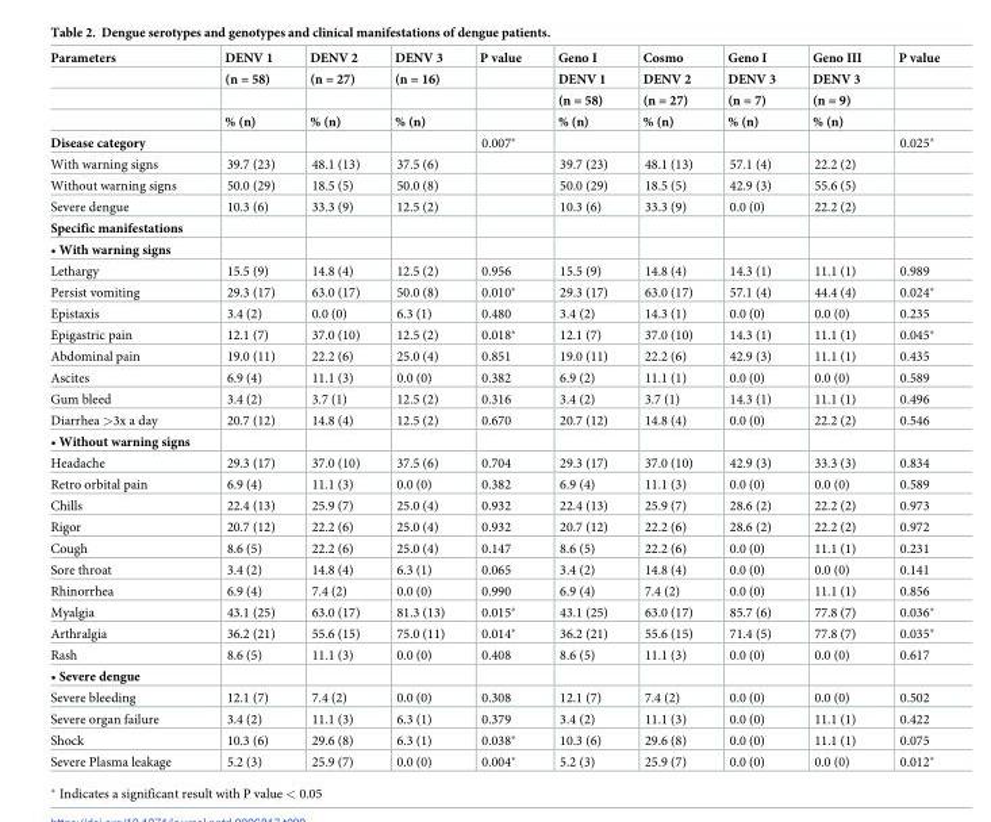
<table><thead><tr><td rowspan="4">Parameters</td><td rowspan="4">DENV 1 (n = 58) % (n)</td><td rowspan="4">DENV 2 (n = 27) % (n)</td><td rowspan="4">DENV 3 (n = 16) % (n)</td><td rowspan="4">P value</td><td rowspan="4">Geno I DENV 1 (n = 58) % (n)</td><td rowspan="4">Cosmo DENV 2 (n = 27) % (n)</td><td rowspan="4">Geno I DENV 3 (n = 7) % (n)</td><td rowspan="4">Geno III DENV 3 (n = 9) % (n)</td><td rowspan="4">P value</td></tr><tr></tr><tr></tr><tr></tr></thead><tbody><tr><td>Disease category</td><td></td><td></td><td></td><td>0.007*</td><td></td><td></td><td></td><td></td><td>0.025*</td></tr><tr><td>With warning signs</td><td>39.7 (23)</td><td>48.1 (13)</td><td>37.5 (6)</td><td></td><td>39.7 (23)</td><td>48.1 (13)</td><td>57.1 (4)</td><td>22.2 (2)</td><td></td></tr><tr><td>Without warning signs</td><td>50.0 (29)</td><td>18.5 (5)</td><td>50.0 (8)</td><td></td><td>50.0 (29)</td><td>18.5 (5)</td><td>42.9 (3)</td><td>55.6 (5)</td><td></td></tr><tr><td>Severe dengue</td><td>10.3 (6)</td><td>33.3 (9)</td><td>12.5 (2)</td><td></td><td>10.3 (6)</td><td>33.3 (9)</td><td>0.0 (0)</td><td>22.2 (2)</td><td></td></tr><tr><td colspan="10">Specific manifestations</td></tr><tr><td colspan="10">• With warning signs</td></tr><tr><td>Lethargy</td><td>15.5 (9)</td><td>14.8 (4)</td><td>12.5 (2)</td><td>0.956</td><td>15.5 (9)</td><td>14.8 (4)</td><td>14.3 (1)</td><td>11.1 (1)</td><td>0.989</td></tr><tr><td>Persist vomiting</td><td>29.3 (17)</td><td>63.0 (17)</td><td>50.0 (8)</td><td>0.010*</td><td>29.3 (17)</td><td>63.0 (17)</td><td>57.1 (4)</td><td>44.4 (4)</td><td>0.024*</td></tr><tr><td>Epistaxis</td><td>3.4 (2)</td><td>0.0 (0)</td><td>6.3 (1)</td><td>0.480</td><td>3.4 (2)</td><td>14.3 (1)</td><td>0.0 (0)</td><td>0.0 (0)</td><td>0.235</td></tr><tr><td>Epigastric pain</td><td>12.1 (7)</td><td>37.0 (10)</td><td>12.5 (2)</td><td>0.018*</td><td>12.1 (7)</td><td>37.0 (10)</td><td>14.3 (1)</td><td>11.1 (1)</td><td>0.045*</td></tr><tr><td>Abdominal pain</td><td>19.0 (11)</td><td>22.2 (6)</td><td>25.0 (4)</td><td>0.851</td><td>19.0 (11)</td><td>22.2 (6)</td><td>42.9 (3)</td><td>11.1 (1)</td><td>0.435</td></tr><tr><td>Ascites</td><td>6.9 (4)</td><td>11.1 (3)</td><td>0.0 (0)</td><td>0.382</td><td>6.9 (2)</td><td>11.1 (1)</td><td>0.0 (0)</td><td>0.0 (0)</td><td>0.589</td></tr><tr><td>Gum bleed</td><td>3.4 (2)</td><td>3.7 (1)</td><td>12.5 (2)</td><td>0.316</td><td>3.4 (2)</td><td>3.7 (1)</td><td>14.3 (1)</td><td>11.1 (1)</td><td>0.496</td></tr><tr><td>Diarrhea &gt;3x a day</td><td>20.7 (12)</td><td>14.8 (4)</td><td>12.5 (2)</td><td>0.670</td><td>20.7 (12)</td><td>14.8 (4)</td><td>0.0 (0)</td><td>22.2 (2)</td><td>0.546</td></tr><tr><td colspan="10">• Without warning signs</td></tr><tr><td>Headache</td><td>29.3 (17)</td><td>37.0 (10)</td><td>37.5 (6)</td><td>0.704</td><td>29.3 (17)</td><td>37.0 (10)</td><td>42.9 (3)</td><td>33.3 (3)</td><td>0.834</td></tr><tr><td>Retro orbital pain</td><td>6.9 (4)</td><td>11.1 (3)</td><td>0.0 (0)</td><td>0.382</td><td>6.9 (4)</td><td>11.1 (3)</td><td>0.0 (0)</td><td>0.0 (0)</td><td>0.589</td></tr><tr><td>Chills</td><td>22.4 (13)</td><td>25.9 (7)</td><td>25.0 (4)</td><td>0.932</td><td>22.4 (13)</td><td>25.9 (7)</td><td>28.6 (2)</td><td>22.2 (2)</td><td>0.973</td></tr><tr><td>Rigor</td><td>20.7 (12)</td><td>22.2 (6)</td><td>25.0 (4)</td><td>0.932</td><td>20.7 (12)</td><td>22.2 (6)</td><td>28.6 (2)</td><td>22.2 (2)</td><td>0.972</td></tr><tr><td>Cough</td><td>8.6 (5)</td><td>22.2 (6)</td><td>25.0 (4)</td><td>0.147</td><td>8.6 (5)</td><td>22.2 (6)</td><td>0.0 (0)</td><td>11.1 (1)</td><td>0.231</td></tr><tr><td>Sore throat</td><td>3.4 (2)</td><td>14.8 (4)</td><td>6.3 (1)</td><td>0.065</td><td>3.4 (2)</td><td>14.8 (4)</td><td>0.0 (0)</td><td>0.0 (0)</td><td>0.141</td></tr><tr><td>Rhinorrhea</td><td>6.9 (4)</td><td>7.4 (2)</td><td>0.0 (0)</td><td>0.990</td><td>6.9 (4)</td><td>7.4 (2)</td><td>0.0 (0)</td><td>11.1 (1)</td><td>0.856</td></tr><tr><td>Myalgia</td><td>43.1 (25)</td><td>63.0 (17)</td><td>81.3 (13)</td><td>0.015*</td><td>43.1 (25)</td><td>63.0 (17)</td><td>85.7 (6)</td><td>77.8 (7)</td><td>0.036*</td></tr><tr><td>Arthralgia</td><td>36.2 (21)</td><td>55.6 (15)</td><td>75.0 (11)</td><td>0.014*</td><td>36.2 (21)</td><td>55.6 (15)</td><td>71.4 (5)</td><td>77.8 (7)</td><td>0.035*</td></tr><tr><td>Rash</td><td>8.6 (5)</td><td>11.1 (3)</td><td>0.0 (0)</td><td>0.408</td><td>8.6 (5)</td><td>11.1 (3)</td><td>0.0 (0)</td><td>0.0 (0)</td><td>0.617</td></tr><tr><td colspan="10">• Severe dengue</td></tr><tr><td>Severe bleeding</td><td>12.1 (7)</td><td>7.4 (2)</td><td>0.0 (0)</td><td>0.308</td><td>12.1 (7)</td><td>7.4 (2)</td><td>0.0 (0)</td><td>0.0 (0)</td><td>0.502</td></tr><tr><td>Severe organ failure</td><td>3.4 (2)</td><td>11.1 (3)</td><td>6.3 (1)</td><td>0.379</td><td>3.4 (2)</td><td>11.1 (3)</td><td>0.0 (0)</td><td>11.1 (1)</td><td>0.422</td></tr><tr><td>Shock</td><td>10.3 (6)</td><td>29.6 (8)</td><td>6.3 (1)</td><td>0.038*</td><td>10.3 (6)</td><td>29.6 (8)</td><td>0.0 (0)</td><td>11.1 (1)</td><td>0.075</td></tr><tr><td>Severe Plasma leakage</td><td>5.2 (3)</td><td>25.9 (7)</td><td>0.0 (0)</td><td>0.004*</td><td>5.2 (3)</td><td>25.9 (7)</td><td>0.0 (0)</td><td>0.0 (0)</td><td>0.012*</td></tr></tbody></table>